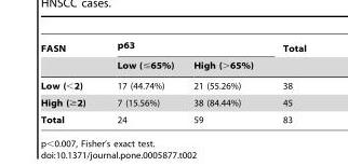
<table><thead><tr><td rowspan="2">FASN</td><td colspan="2">p63</td><td rowspan="2">Total</td></tr><tr><td>Low (≤65%)</td><td>High (&gt;65%)</td></tr></thead><tbody><tr><td>Low (&lt;2)</td><td>17 (44.74%)</td><td>21 (55.26%)</td><td>38</td></tr><tr><td>High (≥2)</td><td>7 (15.56%)</td><td>38 (84.44%)</td><td>45</td></tr><tr><td>Total</td><td>24</td><td>59</td><td>83</td></tr></tbody></table>